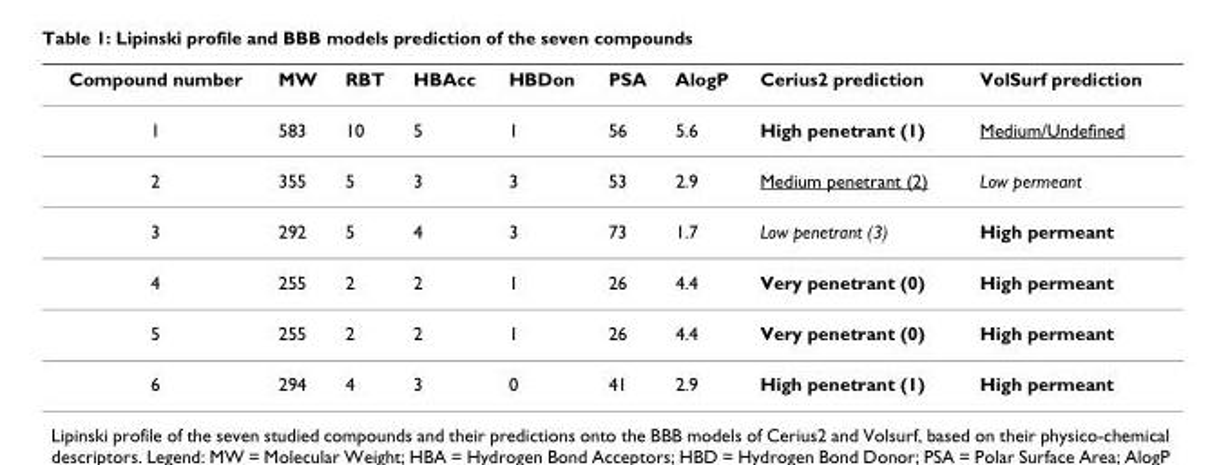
<table><thead><tr><td>Compound number</td><td>MW</td><td>RBT</td><td>HBAcc</td><td>HBDon</td><td>PSA</td><td>AlogP</td><td>Cerius2 prediction</td><td>VolSurf prediction</td></tr></thead><tbody><tr><td>1</td><td>583</td><td>10</td><td>5</td><td>1</td><td>56</td><td>5.6</td><td>High penetrant (1)</td><td>Medium/Undefined</td></tr><tr><td>2</td><td>355</td><td>5</td><td>3</td><td>3</td><td>53</td><td>2.9</td><td>Medium penetrant (2)</td><td>Low permeant</td></tr><tr><td>3</td><td>292</td><td>5</td><td>4</td><td>3</td><td>73</td><td>1.7</td><td>Low penetrant (3)</td><td>High permeant</td></tr><tr><td>4</td><td>255</td><td>2</td><td>2</td><td>1</td><td>26</td><td>4.4</td><td>Very penetrant (0)</td><td>High permeant</td></tr><tr><td>5</td><td>255</td><td>2</td><td>2</td><td>1</td><td>26</td><td>4.4</td><td>Very penetrant (0)</td><td>High permeant</td></tr><tr><td>6</td><td>294</td><td>4</td><td>3</td><td>0</td><td>41</td><td>2.9</td><td>High penetrant (1)</td><td>High permeant</td></tr></tbody></table>